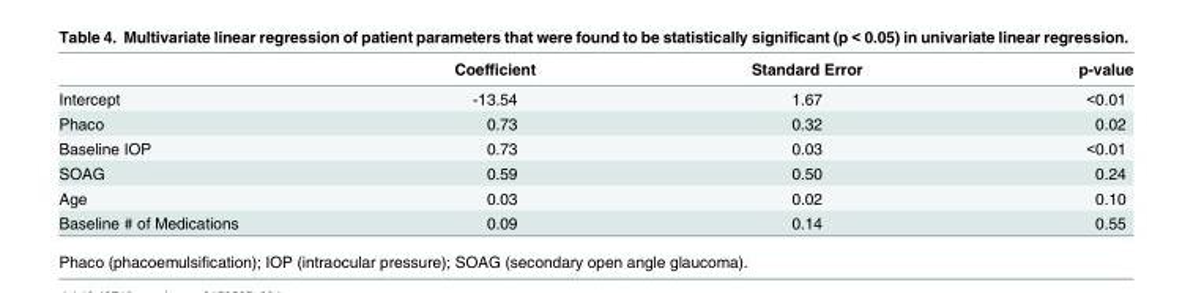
<table><thead><tr><td></td><td>Coefficient</td><td>Standard Error</td><td>p-value</td></tr></thead><tbody><tr><td>Intercept</td><td>-13.54</td><td>1.67</td><td>&lt;0.01</td></tr><tr><td>Phaco</td><td>0.73</td><td>0.32</td><td>0.02</td></tr><tr><td>Baseline IOP</td><td>0.73</td><td>0.03</td><td>&lt;0.01</td></tr><tr><td>SOAG</td><td>0.59</td><td>0.50</td><td>0.24</td></tr><tr><td>Age</td><td>0.03</td><td>0.02</td><td>0.10</td></tr><tr><td>Baseline # of Medications</td><td>0.09</td><td>0.14</td><td>0.55</td></tr></tbody></table>